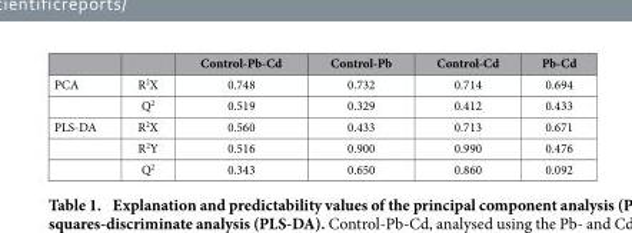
<table><thead><tr><td></td><td></td><td>Control-Pb-Cd</td><td>Control-Pb</td><td>Control-Cd</td><td>Pb-Cd</td></tr></thead><tbody><tr><td rowspan="2">PCA</td><td>R<sup>2</sup>X</td><td>0.748</td><td>0.732</td><td>0.714</td><td>0.694</td></tr><tr><td>Q<sup>2</sup></td><td>0.519</td><td>0.329</td><td>0.412</td><td>0.433</td></tr><tr><td rowspan="3">PLS-DA</td><td>R<sup>2</sup>X</td><td>0.560</td><td>0.433</td><td>0.713</td><td>0.671</td></tr><tr><td>R<sup>2</sup>Y</td><td>0.516</td><td>0.900</td><td>0.990</td><td>0.476</td></tr><tr><td>Q<sup>2</sup></td><td>0.343</td><td>0.650</td><td>0.860</td><td>0.092</td></tr></tbody></table>